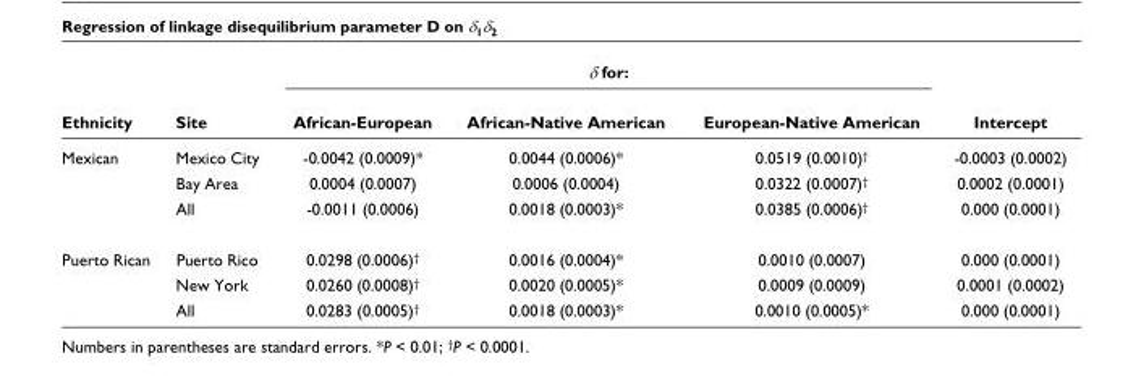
<table><thead><tr><td rowspan="2">Ethnicity</td><td rowspan="2">Site</td><td colspan="3">δ for:</td><td rowspan="2">Intercept</td></tr><tr><td>African-European</td><td>African-Native American</td><td>European-Native American</td></tr></thead><tbody><tr><td rowspan="3">Mexican</td><td>Mexico City</td><td>-0.0042 (0.0009)*</td><td>0.0044 (0.0006)*</td><td>0.0519 (0.0010)<sup>†</sup></td><td>-0.0003 (0.0002)</td></tr><tr><td>Bay Area</td><td>0.0004 (0.0007)</td><td>0.0006 (0.0004)</td><td>0.0322 (0.0007)<sup>†</sup></td><td>0.0002 (0.0001)</td></tr><tr><td>All</td><td>-0.0011 (0.0006)</td><td>0.0018 (0.0003)*</td><td>0.0385 (0.0006)<sup>†</sup></td><td>0.000 (0.0001)</td></tr><tr><td rowspan="3">Puerto Rican</td><td>Puerto Rico</td><td>0.0298 (0.0006)<sup>†</sup></td><td>0.0016 (0.0004)*</td><td>0.0010 (0.0007)</td><td>0.000 (0.0001)</td></tr><tr><td>New York</td><td>0.0260 (0.0008)<sup>†</sup></td><td>0.0020 (0.0005)*</td><td>0.0009 (0.0009)</td><td>0.0001 (0.0002)</td></tr><tr><td>All</td><td>0.0283 (0.0005)<sup>†</sup></td><td>0.0018 (0.0003)*</td><td>0.0010 (0.0005)*</td><td>0.000 (0.0001)</td></tr></tbody></table>